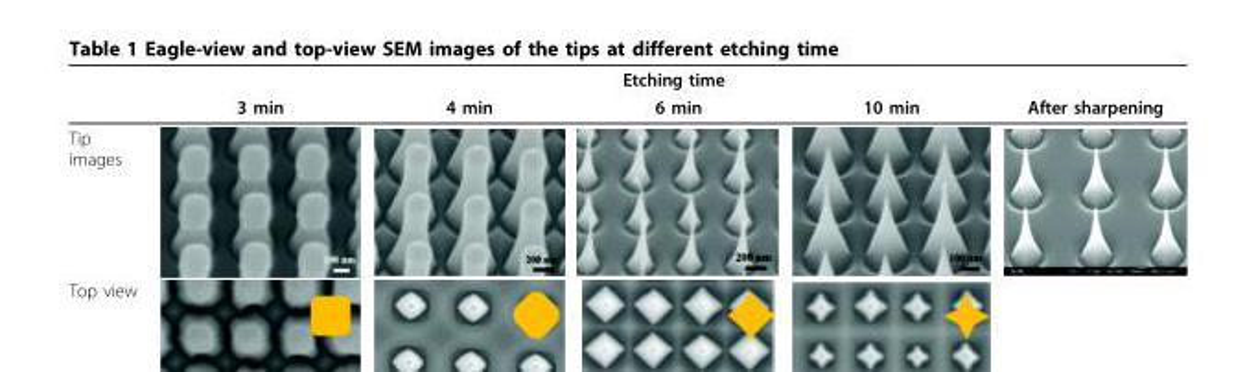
<table><thead><tr><td rowspan="2"></td><td colspan="5">Etching time</td></tr><tr><td>3 min</td><td>4 min</td><td>6 min</td><td>10 min</td><td>After sharpening</td></tr></thead><tbody><tr><td colspan="6">Tip images</td></tr><tr><td>Top view</td><td></td><td></td><td></td><td></td><td></td></tr></tbody></table>